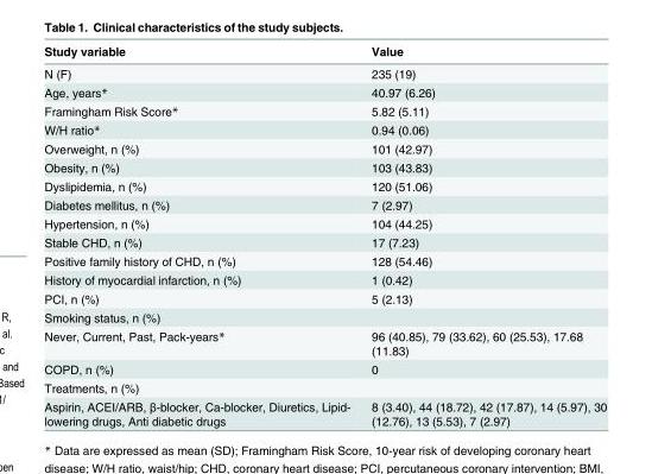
<table><thead><tr><td>Study variable</td><td>Value</td></tr></thead><tbody><tr><td>N (F)</td><td>235 (19)</td></tr><tr><td>Age, years*</td><td>40.97 (6.26)</td></tr><tr><td>Framingham Risk Score*</td><td>5.82 (5.11)</td></tr><tr><td>W/H ratio*</td><td>0.94 (0.06)</td></tr><tr><td>Overweight, n (%)</td><td>101 (42.97)</td></tr><tr><td>Obesity, n (%)</td><td>103 (43.83)</td></tr><tr><td>Dyslipidemia, n (%)</td><td>120 (51.06)</td></tr><tr><td>Diabetes mellitus, n (%)</td><td>7 (2.97)</td></tr><tr><td>Hypertension, n (%)</td><td>104 (44.25)</td></tr><tr><td>Stable CHD, n (%)</td><td>17 (7.23)</td></tr><tr><td>Positive family history of CHD, n (%)</td><td>128 (54.46)</td></tr><tr><td>History of myocardial infarction, n (%)</td><td>1 (0.42)</td></tr><tr><td>PCI, n (%)</td><td>5 (2.13)</td></tr><tr><td colspan="2">Smoking status, n (%)</td></tr><tr><td>Never, Current, Past, Pack-years*</td><td>96 (40.85), 79 (33.62), 60 (25.53), 17.68 (11.83)</td></tr><tr><td>COPD, n (%)</td><td>0</td></tr><tr><td colspan="2">Treatments, n (%)</td></tr><tr><td>Aspirin, ACEI/ARB, β-blocker, Ca-blocker, Diuretics, Lipid- lowering drugs, Anti diabetic drugs</td><td>8 (3.40), 44 (18.72), 42 (17.87), 14 (5.97), 30 (12.76), 13 (5.53), 7 (2.97)</td></tr></tbody></table>